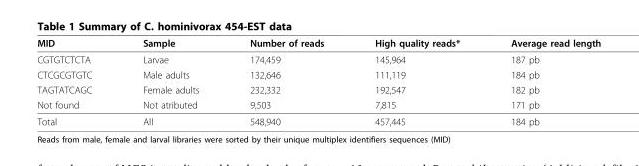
<table><thead><tr><td>MID</td><td>Sample</td><td>Number of reads</td><td>High quality reads*</td><td>Average read length</td></tr></thead><tbody><tr><td>CGTGTCTCTA</td><td>Larvae</td><td>174,459</td><td>145,964</td><td>187 pb</td></tr><tr><td>CTCGCGTGTC</td><td>Male adults</td><td>132,646</td><td>111,119</td><td>184 pb</td></tr><tr><td>TAGTATCAGC</td><td>Female adults</td><td>232,332</td><td>192,547</td><td>182 pb</td></tr><tr><td>Not found</td><td>Not atributed</td><td>9,503</td><td>7,815</td><td>171 pb</td></tr><tr><td>Total</td><td>All</td><td>548,940</td><td>457,445</td><td>184 pb</td></tr></tbody></table>